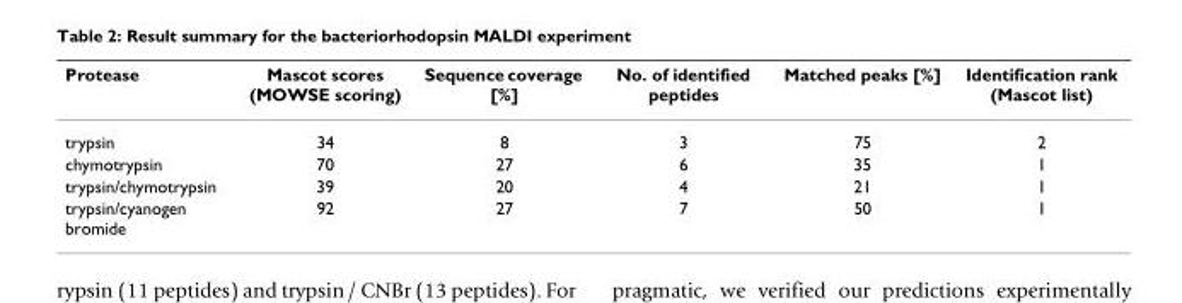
<table><thead><tr><td>Protease</td><td>Mascot scores (MOWSE scoring)</td><td>Sequence coverage [%]</td><td>No. of identified peptides</td><td>Matched peaks [%]</td><td>Identification rank (Mascot list)</td></tr></thead><tbody><tr><td>trypsin</td><td>34</td><td>8</td><td>3</td><td>75</td><td>2</td></tr><tr><td>chymotrypsin</td><td>70</td><td>27</td><td>6</td><td>35</td><td>1</td></tr><tr><td>trypsin/chymotrypsin</td><td>39</td><td>20</td><td>4</td><td>21</td><td>1</td></tr><tr><td>trypsin/cyanogen bromide</td><td>92</td><td>27</td><td>7</td><td>50</td><td>1</td></tr></tbody></table>